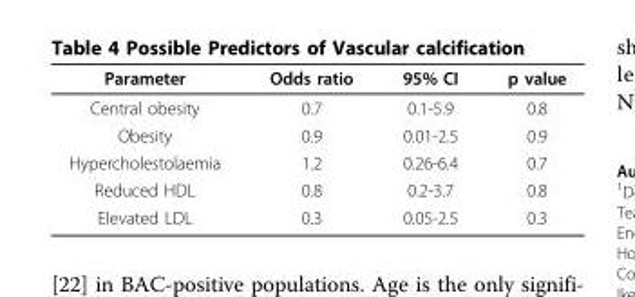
<table><thead><tr><td>Parameter</td><td>Odds ratio</td><td>95% CI</td><td>p value</td></tr></thead><tbody><tr><td>Central obesity</td><td>0.7</td><td>0.1-5.9</td><td>0.8</td></tr><tr><td>Obesity</td><td>0.9</td><td>0.01-2.5</td><td>0.9</td></tr><tr><td>Hypercholestolaemia</td><td>1.2</td><td>0.26-6.4</td><td>0.7</td></tr><tr><td>Reduced HDL</td><td>0.8</td><td>0.2-3.7</td><td>0.8</td></tr><tr><td>Elevated LDL</td><td>0.3</td><td>0.05-2.5</td><td>0.3</td></tr></tbody></table>